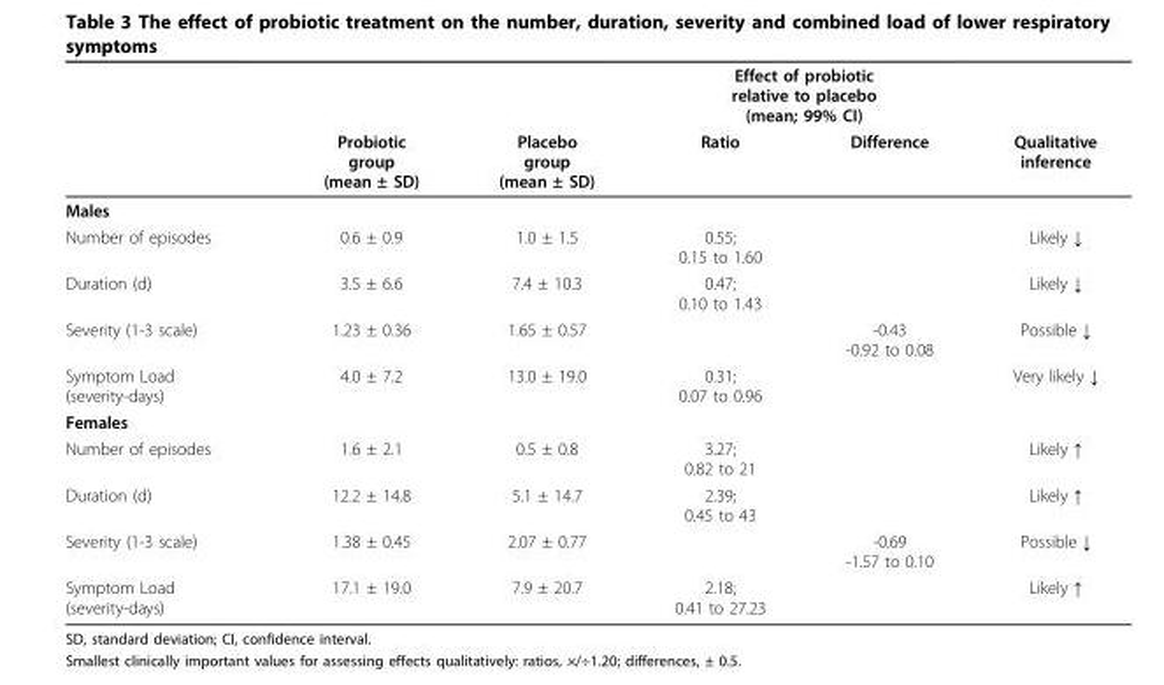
<table><thead><tr><td rowspan="2"></td><td rowspan="2">Probiotic group (mean ± SD)</td><td rowspan="2">Placebo group (mean ± SD)</td><td colspan="2">Effect of probiotic relative to placebo (mean; 99% CI)</td><td rowspan="2">Qualitative inference</td></tr><tr><td>Ratio</td><td>Difference</td></tr></thead><tbody><tr><td colspan="6">Males</td></tr><tr><td>Number of episodes</td><td>0.6 ± 0.9</td><td>1.0 ± 1.5</td><td>0.55; 0.15 to 1.60</td><td></td><td>Likely ↓</td></tr><tr><td>Duration (d)</td><td>3.5 ± 6.6</td><td>7.4 ± 10.3</td><td>0.47; 0.10 to 1.43</td><td></td><td>Likely ↓</td></tr><tr><td>Severity (1-3 scale)</td><td>1.23 ± 0.36</td><td>1.65 ± 0.57</td><td></td><td>-0.43 -0.92 to 0.08</td><td>Possible ↓</td></tr><tr><td>Symptom Load (severity-days)</td><td>4.0 ± 7.2</td><td>13.0 ± 19.0</td><td>0.31; 0.07 to 0.96</td><td></td><td>Very likely ↓</td></tr><tr><td colspan="6">Females</td></tr><tr><td>Number of episodes</td><td>1.6 ± 2.1</td><td>0.5 ± 0.8</td><td>3.27; 0.82 to 21</td><td></td><td>Likely ↑</td></tr><tr><td>Duration (d)</td><td>12.2 ± 14.8</td><td>5.1 ± 14.7</td><td>2.39; 0.45 to 43</td><td></td><td>Likely ↑</td></tr><tr><td>Severity (1-3 scale)</td><td>1.38 ± 0.45</td><td>2.07 ± 0.77</td><td></td><td>-0.69 -1.57 to 0.10</td><td>Possible ↓</td></tr><tr><td>Symptom Load (severity-days)</td><td>17.1 ± 19.0</td><td>7.9 ± 20.7</td><td>2.18; 0.41 to 27.23</td><td></td><td>Likely ↑</td></tr></tbody></table>